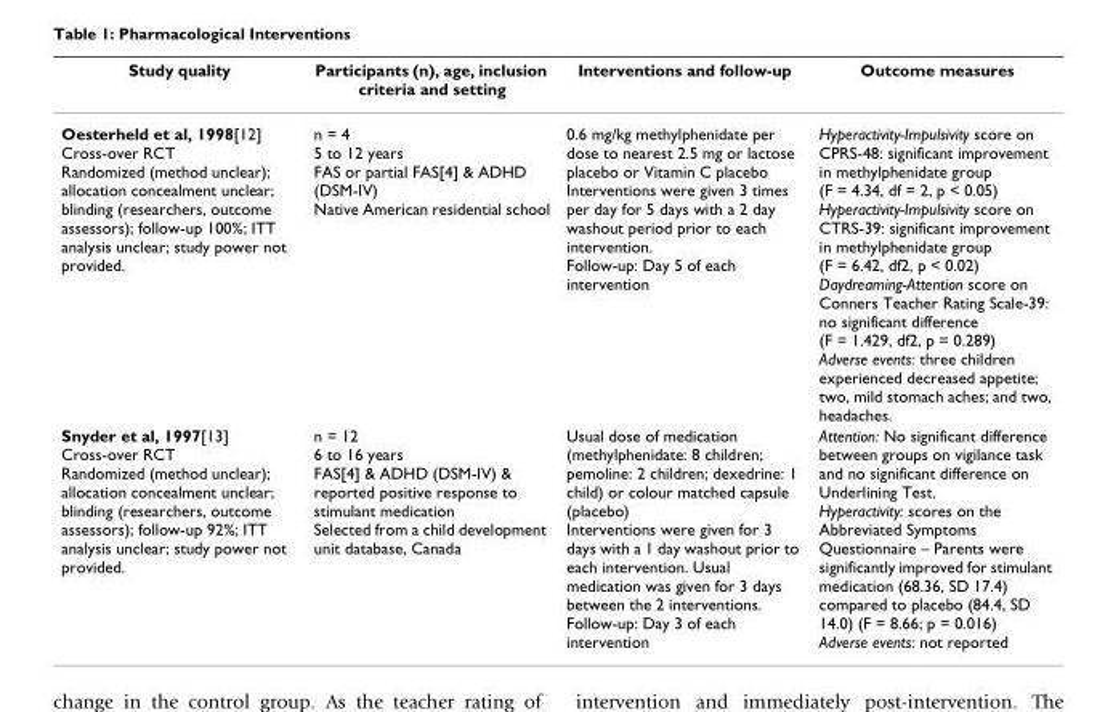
<table><thead><tr><td>Study quality</td><td>Participants (n), age, inclusion criteria and setting</td><td>Interventions and follow-up</td><td>Outcome measures</td></tr></thead><tbody><tr><td>Oesterheld et al, 1998[12] Cross-over RCT Randomized (method unclear); allocation concealment unclear; blinding (researchers, outcome assessors); follow-up 100%; ITT analysis unclear; study power not provided.</td><td>n = 4 5 to 12 years FAS or partial FAS[4] &amp; ADHD (DSM-IV) Native American residential school</td><td>0.6 mg/kg methylphenidate per dose to nearest 2.5 mg or lactose placebo or Vitamin C placebo Interventions were given 3 times per day for 5 days with a 2 day washout period prior to each intervention. Follow-up: Day 5 of each intervention</td><td>Hyperactivity-Impulsivity score on CPRS-48: significant improvement in methylphenidate group (F = 4.34, df = 2, p &lt; 0.05) Hyperactivity-Impulsivity score on CTRS-39: significant improvement in methylphenidate group (F = 6.42, df2, p &lt; 0.02) Daydreaming-Attention score on Conners Teacher Rating Scale-39: no significant difference (F = 1.429, df2, p = 0.289) Adverse events: three children experienced decreased appetite; two, mild stomach aches; and two, headaches.</td></tr><tr><td>Snyder et al, 1997[13] Cross-over RCT Randomized (method unclear); allocation concealment unclear; blinding (researchers, outcome assessors); follow-up 92%; ITT analysis unclear; study power not provided.</td><td>n = 12 6 to 16 years FAS[4] &amp; ADHD (DSM-IV) &amp; reported positive response to stimulant medication Selected from a child development unit database, Canada</td><td>Usual dose of medication (methylphenidate: 8 children; pemoline: 2 children; dexedrine: 1 child) or colour matched capsule (placebo) Interventions were given for 3 days with a 1 day washout prior to each intervention. Usual medication was given for 3 days between the 2 interventions. Follow-up: Day 3 of each intervention</td><td>Attention: No significant difference between groups on vigilance task and no significant difference on Underlining Test. Hyperactivity: scores on the Abbreviated Symptoms Questionnaire – Parents were significantly improved for stimulant medication (68.36, SD 17.4) compared to placebo (84.4, SD 14.0) (F = 8.66; p = 0.016) Adverse events: not reported</td></tr></tbody></table>